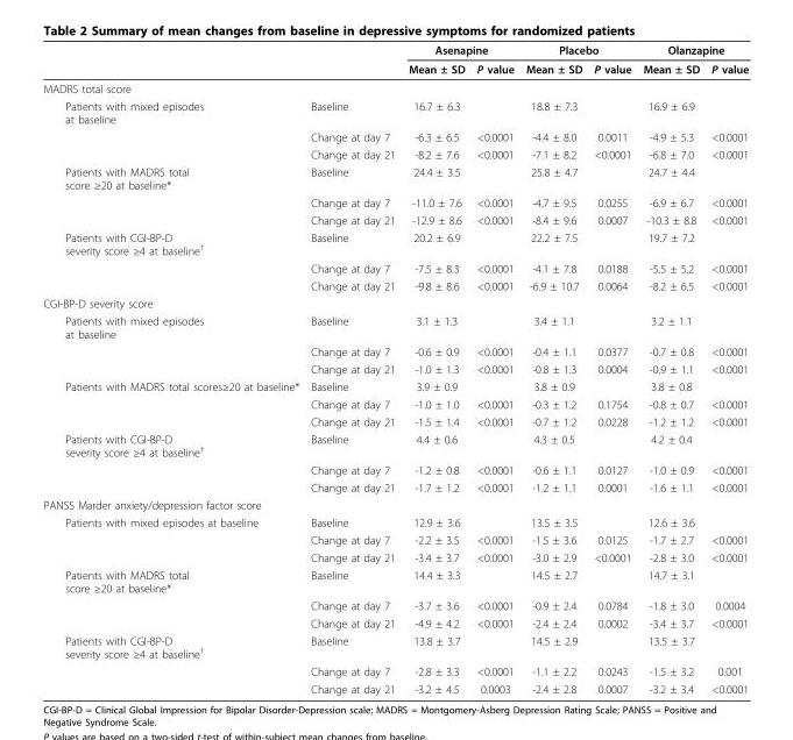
<table><thead><tr><td rowspan="2"></td><td rowspan="2"></td><td colspan="2">Asenapine</td><td colspan="2">Placebo</td><td colspan="2">Olanzapine</td></tr><tr><td>Mean ± SD</td><td>P value</td><td>Mean ± SD</td><td>P value</td><td>Mean ± SD</td><td>P value</td></tr></thead><tbody><tr><td colspan="8">MADRS total score</td></tr><tr><td rowspan="3">Patients with mixed episodes at baseline</td><td>Baseline</td><td>16.7 ± 6.3</td><td></td><td>18.8 ± 7.3</td><td></td><td>16.9 ± 6.9</td><td></td></tr><tr><td>Change at day 7</td><td>-6.3 ± 6.5</td><td>&lt;0.0001</td><td>-4.4 ± 8.0</td><td>0.0011</td><td>-4.9 ± 5.3</td><td>&lt;0.0001</td></tr><tr><td>Change at day 21</td><td>-8.2 ± 7.6</td><td>&lt;0.0001</td><td>-7.1 ± 8.2</td><td>&lt;0.0001</td><td>-6.8 ± 7.0</td><td>&lt;0.0001</td></tr><tr><td rowspan="3">Patients with MADRS total score ≥20 at baseline*</td><td>Baseline</td><td>24.4 ± 3.5</td><td></td><td>25.8 ± 4.7</td><td></td><td>24.7 ± 4.4</td><td></td></tr><tr><td>Change at day 7</td><td>-11.0 ± 7.6</td><td>&lt;0.0001</td><td>-4.7 ± 9.5</td><td>0.0255</td><td>-6.9 ± 6.7</td><td>&lt;0.0001</td></tr><tr><td>Change at day 21</td><td>-12.9 ± 8.6</td><td>&lt;0.0001</td><td>-8.4 ± 9.6</td><td>0.0007</td><td>-10.3 ± 8.8</td><td>&lt;0.0001</td></tr><tr><td rowspan="3">Patients with CGI-BP-D severity score ≥4 at baseline<sup>†</sup></td><td>Baseline</td><td>20.2 ± 6.9</td><td></td><td>22.2 ± 7.5</td><td></td><td>19.7 ± 7.2</td><td></td></tr><tr><td>Change at day 7</td><td>-7.5 ± 8.3</td><td>&lt;0.0001</td><td>-4.1 ± 7.8</td><td>0.0188</td><td>-5.5 ± 5.2</td><td>&lt;0.0001</td></tr><tr><td>Change at day 21</td><td>-9.8 ± 8.6</td><td>&lt;0.0001</td><td>-6.9 ± 10.7</td><td>0.0064</td><td>-8.2 ± 6.5</td><td>&lt;0.0001</td></tr><tr><td colspan="8">CGI-BP-D severity score</td></tr><tr><td rowspan="3">Patients with mixed episodes at baseline</td><td>Baseline</td><td>3.1 ± 1.3</td><td></td><td>3.4 ± 1.1</td><td></td><td>3.2 ± 1.1</td><td></td></tr><tr><td>Change at day 7</td><td>-0.6 ± 0.9</td><td>&lt;0.0001</td><td>-0.4 ± 1.1</td><td>0.0377</td><td>-0.7 ± 0.8</td><td>&lt;0.0001</td></tr><tr><td>Change at day 21</td><td>-1.0 ± 1.3</td><td>&lt;0.0001</td><td>-0.8 ± 1.3</td><td>0.0004</td><td>-0.9 ± 1.1</td><td>&lt;0.0001</td></tr><tr><td rowspan="3">Patients with MADRS total scores≥20 at baseline*</td><td>Baseline</td><td>3.9 ± 0.9</td><td></td><td>3.8 ± 0.9</td><td></td><td>3.8 ± 0.8</td><td></td></tr><tr><td>Change at day 7</td><td>-1.0 ± 1.0</td><td>&lt;0.0001</td><td>-0.3 ± 1.2</td><td>0.1754</td><td>-0.8 ± 0.7</td><td>&lt;0.0001</td></tr><tr><td>Change at day 21</td><td>-1.5 ± 1.4</td><td>&lt;0.0001</td><td>-0.7 ± 1.2</td><td>0.0228</td><td>-1.2 ± 1.2</td><td>&lt;0.0001</td></tr><tr><td rowspan="3">Patients with CGI-BP-D severity score ≥4 at baseline<sup>†</sup></td><td>Baseline</td><td>4.4 ± 0.6</td><td></td><td>4.3 ± 0.5</td><td></td><td>4.2 ± 0.4</td><td></td></tr><tr><td>Change at day 7</td><td>-1.2 ± 0.8</td><td>&lt;0.0001</td><td>-0.6 ± 1.1</td><td>0.0127</td><td>-1.0 ± 0.9</td><td>&lt;0.0001</td></tr><tr><td>Change at day 21</td><td>-1.7 ± 1.2</td><td>&lt;0.0001</td><td>-1.2 ± 1.1</td><td>0.0001</td><td>-1.6 ± 1.1</td><td>&lt;0.0001</td></tr><tr><td colspan="8">PANSS Marder anxiety/depression factor score</td></tr><tr><td rowspan="3">Patients with mixed episodes at baseline</td><td>Baseline</td><td>12.9 ± 3.6</td><td></td><td>13.5 ± 3.5</td><td></td><td>12.6 ± 3.6</td><td></td></tr><tr><td>Change at day 7</td><td>-2.2 ± 3.5</td><td>&lt;0.0001</td><td>-1.5 ± 3.6</td><td>0.0125</td><td>-1.7 ± 2.7</td><td>&lt;0.0001</td></tr><tr><td>Change at day 21</td><td>-3.4 ± 3.7</td><td>&lt;0.0001</td><td>-3.0 ± 2.9</td><td>&lt;0.0001</td><td>-2.8 ± 3.0</td><td>&lt;0.0001</td></tr><tr><td rowspan="3">Patients with MADRS total score ≥20 at baseline*</td><td>Baseline</td><td>14.4 ± 3.3</td><td></td><td>14.5 ± 2.7</td><td></td><td>14.7 ± 3.1</td><td></td></tr><tr><td>Change at day 7</td><td>-3.7 ± 3.6</td><td>&lt;0.0001</td><td>-0.9 ± 2.4</td><td>0.0784</td><td>-1.8 ± 3.0</td><td>0.0004</td></tr><tr><td>Change at day 21</td><td>-4.9 ± 4.2</td><td>&lt;0.0001</td><td>-2.4 ± 2.4</td><td>0.0002</td><td>-3.4 ± 3.7</td><td>&lt;0.0001</td></tr><tr><td rowspan="3">Patients with CGI-BP-D severity score ≥4 at baseline<sup>†</sup></td><td>Baseline</td><td>13.8 ± 3.7</td><td></td><td>14.5 ± 2.9</td><td></td><td>13.5 ± 3.7</td><td></td></tr><tr><td>Change at day 7</td><td>-2.8 ± 3.3</td><td>&lt;0.0001</td><td>-1.1 ± 2.2</td><td>0.0243</td><td>-1.5 ± 3.2</td><td>0.001</td></tr><tr><td>Change at day 21</td><td>-3.2 ± 4.5</td><td>0.0003</td><td>-2.4 ± 2.8</td><td>0.0007</td><td>-3.2 ± 3.4</td><td>&lt;0.0001</td></tr></tbody></table>